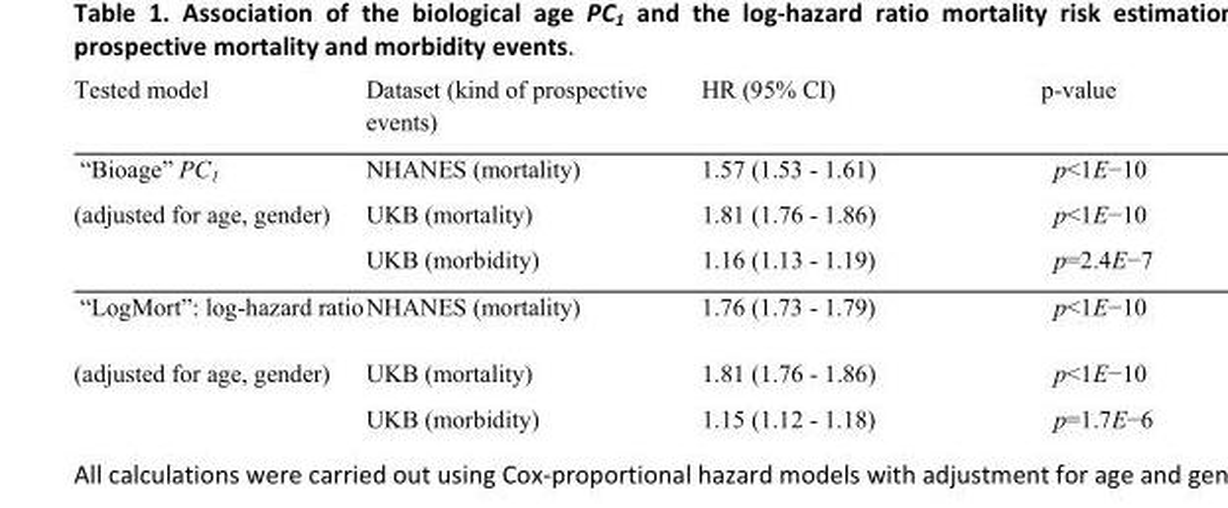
<table><tbody><tr><td>Tested model</td><td>Dataset (kind of prospective events)</td><td>HR (95% CI)</td><td>p-value</td></tr><tr><td>“Bioage” PC<sub>1</sub></td><td>NHANES (mortality)</td><td>1.57 (1.53 - 1.61)</td><td>p&lt;1E−10</td></tr><tr><td rowspan="2">(adjusted for age, gender)</td><td>UKB (mortality)</td><td>1.81 (1.76 - 1.86)</td><td>p&lt;1E−10</td></tr><tr><td>UKB (morbidity)</td><td>1.16 (1.13 - 1.19)</td><td>p=2.4E−7</td></tr><tr><td>“LogMort”: log-hazard ratio</td><td>NHANES (mortality)</td><td>1.76 (1.73 - 1.79)</td><td>p&lt;1E−10</td></tr><tr><td rowspan="2">(adjusted for age, gender)</td><td>UKB (mortality)</td><td>1.81 (1.76 - 1.86)</td><td>p&lt;1E−10</td></tr><tr><td>UKB (morbidity)</td><td>1.15 (1.12 - 1.18)</td><td>p=1.7E−6</td></tr></tbody></table>